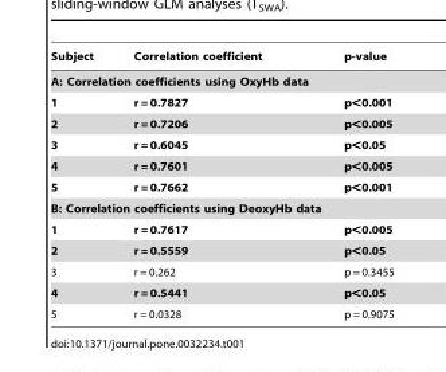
<table><thead><tr><td>Subject</td><td>Correlation coefficient</td><td>p-value</td></tr></thead><tbody><tr><td colspan="3">A: Correlation coefficients using OxyHb data</td></tr><tr><td>1</td><td>r = 0.7827</td><td>p&lt;0.001</td></tr><tr><td>2</td><td>r = 0.7206</td><td>p&lt;0.005</td></tr><tr><td>3</td><td>r = 0.6045</td><td>p&lt;0.05</td></tr><tr><td>4</td><td>r = 0.7601</td><td>p&lt;0.005</td></tr><tr><td>5</td><td>r = 0.7662</td><td>p&lt;0.001</td></tr><tr><td colspan="3">B: Correlation coefficients using DeoxyHb data</td></tr><tr><td>1</td><td>r = 0.7617</td><td>p&lt;0.005</td></tr><tr><td>2</td><td>r = 0.5559</td><td>p&lt;0.05</td></tr><tr><td>3</td><td>r = 0.262</td><td>p = 0.3455</td></tr><tr><td>4</td><td>r = 0.5441</td><td>p&lt;0.05</td></tr><tr><td>5</td><td>r = 0.0328</td><td>p = 0.9075</td></tr></tbody></table>